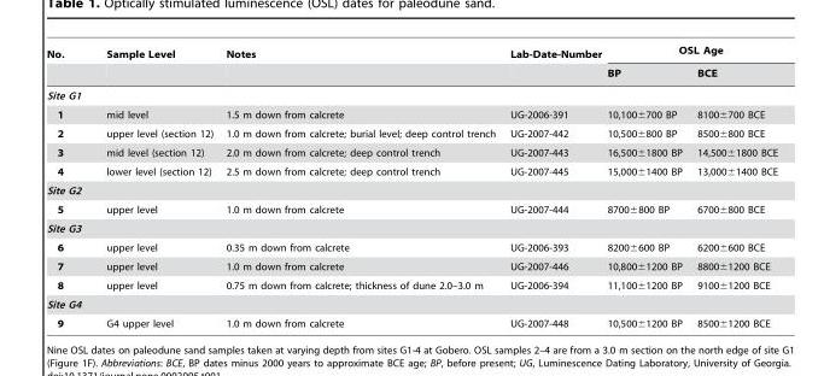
<table><thead><tr><td rowspan="2">No.</td><td rowspan="2">Sample Level</td><td rowspan="2">Notes</td><td rowspan="2">Lab-Date-Number</td><td colspan="2">OSL Age</td></tr><tr><td>BP</td><td>BCE</td></tr></thead><tbody><tr><td colspan="6">Site G1</td></tr><tr><td>1</td><td>mid level</td><td>1.5 m down from calcrete</td><td>UG-2006-391</td><td>10,100±700 BP</td><td>8100±700 BCE</td></tr><tr><td>2</td><td>upper level (section 12)</td><td>1.0 m down from calcrete; burial level; deep control trench</td><td>UG-2007-442</td><td>10,500±800 BP</td><td>8500±800 BCE</td></tr><tr><td>3</td><td>mid level (section 12)</td><td>2.0 m down from calcrete; deep control trench</td><td>UG-2007-443</td><td>16,500±1800 BP</td><td>14,500±1800 BCE</td></tr><tr><td>4</td><td>lower level (section 12)</td><td>2.5 m down from calcrete; deep control trench</td><td>UG-2007-445</td><td>15,000±1400 BP</td><td>13,000±1400 BCE</td></tr><tr><td colspan="6">Site G2</td></tr><tr><td>5</td><td>upper level</td><td>1.0 m down from calcrete</td><td>UG-2007-444</td><td>8700±800 BP</td><td>6700±800 BCE</td></tr><tr><td colspan="6">Site G3</td></tr><tr><td>6</td><td>upper level</td><td>0.35 m down from calcrete</td><td>UG-2006-393</td><td>8200±600 BP</td><td>6200±600 BCE</td></tr><tr><td>7</td><td>upper level</td><td>1.0 m down from calcrete</td><td>UG-2007-446</td><td>10,800±1200 BP</td><td>8800±1200 BCE</td></tr><tr><td>8</td><td>upper level</td><td>0.75 m down from calcrete; thickness of dune 2.0–3.0 m</td><td>UG-2006-394</td><td>11,100±1200 BP</td><td>9100±1200 BCE</td></tr><tr><td colspan="6">Site G4</td></tr><tr><td>9</td><td>G4 upper level</td><td>1.0 m down from calcrete</td><td>UG-2007-448</td><td>10,500±1200 BP</td><td>8500±1200 BCE</td></tr></tbody></table>